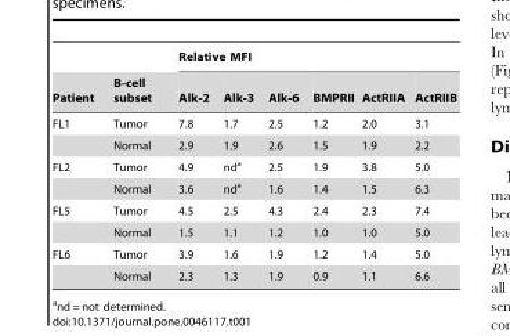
<table><thead><tr><td rowspan="2">Patient</td><td rowspan="2">B-cell subset</td><td colspan="6">Relative MFI</td></tr><tr><td>Alk-2</td><td>Alk-3</td><td>Alk-6</td><td>BMPRII</td><td>ActRIIA</td><td>ActRIIB</td></tr></thead><tbody><tr><td rowspan="2">FL1</td><td>Tumor</td><td>7.8</td><td>1.7</td><td>2.5</td><td>1.2</td><td>2.0</td><td>3.1</td></tr><tr><td>Normal</td><td>2.9</td><td>1.9</td><td>2.6</td><td>1.5</td><td>1.9</td><td>2.2</td></tr><tr><td rowspan="2">FL2</td><td>Tumor</td><td>4.9</td><td>nd<sup>a</sup></td><td>2.5</td><td>1.9</td><td>3.8</td><td>5.0</td></tr><tr><td>Normal</td><td>3.6</td><td>nd<sup>a</sup></td><td>1.6</td><td>1.4</td><td>1.5</td><td>6.3</td></tr><tr><td rowspan="2">FL5</td><td>Tumor</td><td>4.5</td><td>2.5</td><td>4.3</td><td>2.4</td><td>2.3</td><td>7.4</td></tr><tr><td>Normal</td><td>1.5</td><td>1.1</td><td>1.2</td><td>1.0</td><td>1.0</td><td>5.0</td></tr><tr><td rowspan="2">FL6</td><td>Tumor</td><td>3.9</td><td>1.6</td><td>1.9</td><td>1.2</td><td>1.4</td><td>5.0</td></tr><tr><td>Normal</td><td>2.3</td><td>1.3</td><td>1.9</td><td>0.9</td><td>1.1</td><td>6.6</td></tr></tbody></table>